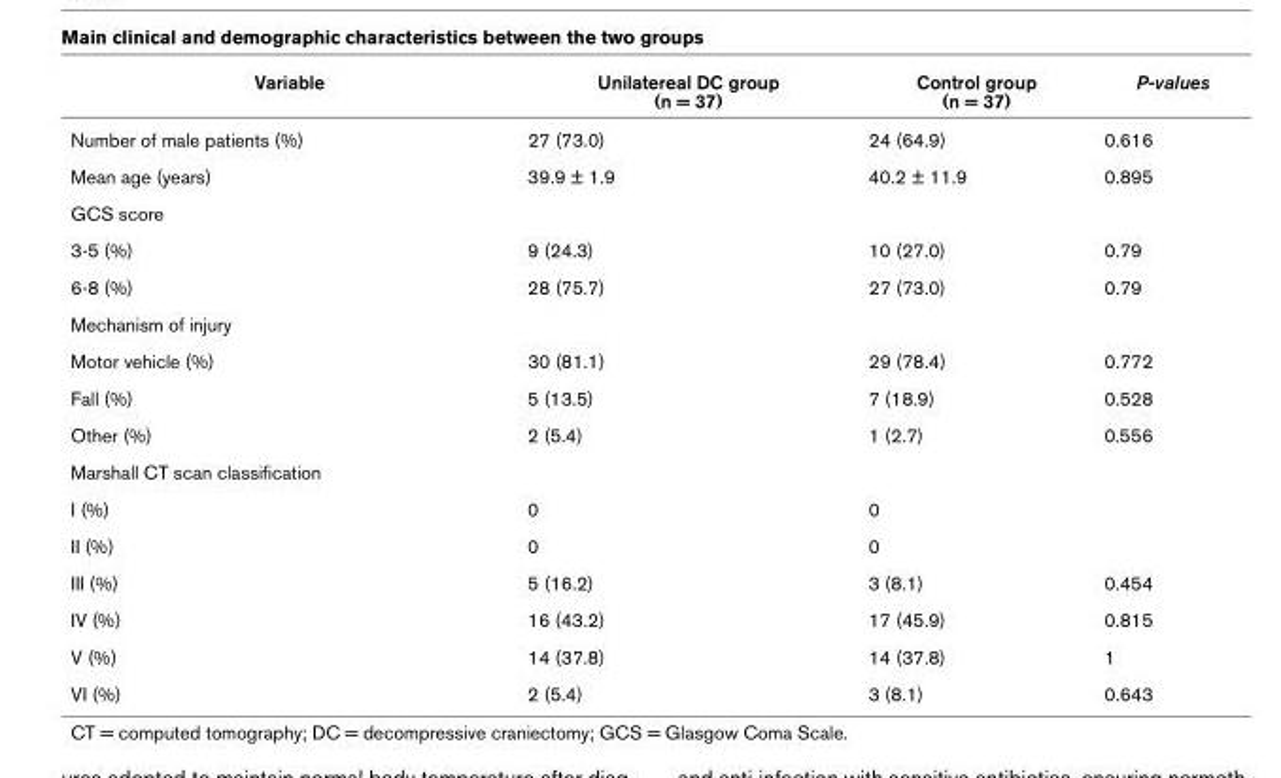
<table><thead><tr><td>Variable</td><td>Unilatereal DC group (n = 37)</td><td>Control group (n = 37)</td><td>P-values</td></tr></thead><tbody><tr><td>Number of male patients (%)</td><td>27 (73.0)</td><td>24 (64.9)</td><td>0.616</td></tr><tr><td>Mean age (years)</td><td>39.9 ± 1.9</td><td>40.2 ± 11.9</td><td>0.895</td></tr><tr><td colspan="4">GCS score</td></tr><tr><td>3-5 (%)</td><td>9 (24.3)</td><td>10 (27.0)</td><td>0.79</td></tr><tr><td>6-8 (%)</td><td>28 (75.7)</td><td>27 (73.0)</td><td>0.79</td></tr><tr><td colspan="4">Mechanism of injury</td></tr><tr><td>Motor vehicle (%)</td><td>30 (81.1)</td><td>29 (78.4)</td><td>0.772</td></tr><tr><td>Fall (%)</td><td>5 (13.5)</td><td>7 (18.9)</td><td>0.528</td></tr><tr><td>Other (%)</td><td>2 (5.4)</td><td>1 (2.7)</td><td>0.556</td></tr><tr><td colspan="4">Marshall CT scan classification</td></tr><tr><td>I (%)</td><td>0</td><td>0</td><td></td></tr><tr><td>II (%)</td><td>0</td><td>0</td><td></td></tr><tr><td>III (%)</td><td>5 (16.2)</td><td>3 (8.1)</td><td>0.454</td></tr><tr><td>IV (%)</td><td>16 (43.2)</td><td>17 (45.9)</td><td>0.815</td></tr><tr><td>V (%)</td><td>14 (37.8)</td><td>14 (37.8)</td><td>1</td></tr><tr><td>VI (%)</td><td>2 (5.4)</td><td>3 (8.1)</td><td>0.643</td></tr></tbody></table>